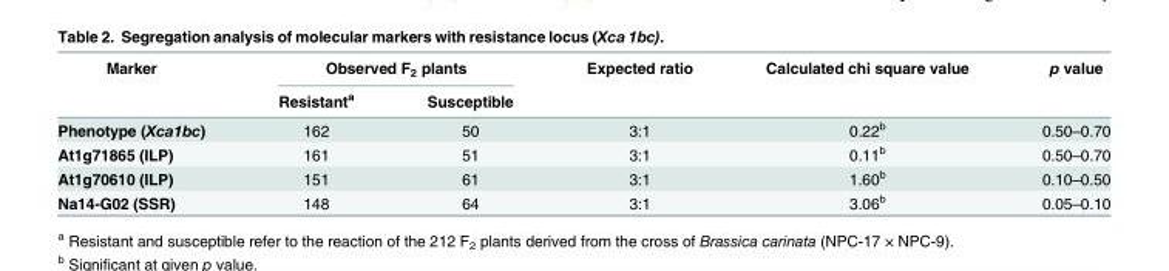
<table><thead><tr><td rowspan="2">Marker</td><td colspan="2">Observed F<sub>2</sub> plants</td><td rowspan="2">Expected ratio</td><td rowspan="2">Calculated chi square value</td><td rowspan="2">p value</td></tr><tr><td>Resistant<sup>a</sup></td><td>Susceptible</td></tr></thead><tbody><tr><td>Phenotype (Xca1bc)</td><td>162</td><td>50</td><td>3:1</td><td>0.22<sup>b</sup></td><td>0.50–0.70</td></tr><tr><td>At1g71865 (ILP)</td><td>161</td><td>51</td><td>3:1</td><td>0.11<sup>b</sup></td><td>0.50–0.70</td></tr><tr><td>At1g70610 (ILP)</td><td>151</td><td>61</td><td>3:1</td><td>1.60<sup>b</sup></td><td>0.10–0.50</td></tr><tr><td>Na14-G02 (SSR)</td><td>148</td><td>64</td><td>3:1</td><td>3.06<sup>b</sup></td><td>0.05–0.10</td></tr></tbody></table>